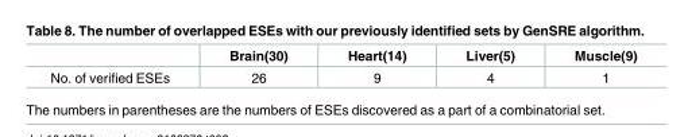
<table><thead><tr><td></td><td>Brain(30)</td><td>Heart(14)</td><td>Liver(5)</td><td>Muscle(9)</td></tr></thead><tbody><tr><td>No. of verified ESEs</td><td>26</td><td>9</td><td>4</td><td>1</td></tr></tbody></table>